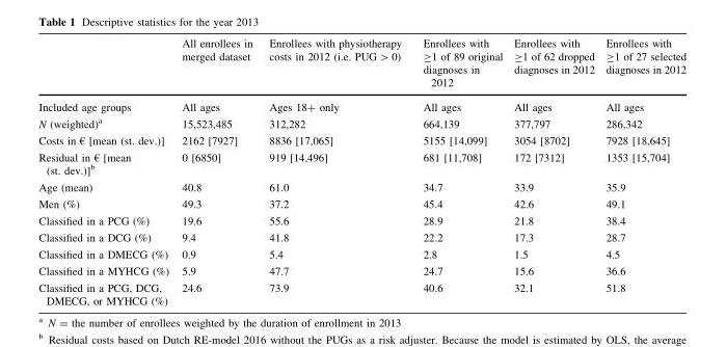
<table><thead><tr><td></td><td>All enrollees in merged dataset</td><td>Enrollees with physiotherapy costs in 2012 (i.e. PUG &gt; 0)</td><td>Enrollees with ≥1 of 89 original diagnoses in 2012</td><td>Enrollees with ≥1 of 62 dropped diagnoses in 2012</td><td>Enrollees with ≥1 of 27 selected diagnoses in 2012</td></tr></thead><tbody><tr><td>Included age groups</td><td>All ages</td><td>Ages 18+ only</td><td>All ages</td><td>All ages</td><td>All ages</td></tr><tr><td>N (weighted)<sup>a</sup></td><td>15,523,485</td><td>312,282</td><td>664,139</td><td>377,797</td><td>286,342</td></tr><tr><td>Costs in € [mean (st. dev.)]</td><td>2162 [7927]</td><td>8836 [17,065]</td><td>5155 [14,099]</td><td>3054 [8702]</td><td>7928 [18,645]</td></tr><tr><td>Residual in € [mean (st. dev.)]<sup>b</sup></td><td>0 [6850]</td><td>919 [14,496]</td><td>681 [11,708]</td><td>172 [7312]</td><td>1353 [15,704]</td></tr><tr><td>Age (mean)</td><td>40.8</td><td>61.0</td><td>34.7</td><td>33.9</td><td>35.9</td></tr><tr><td>Men (%)</td><td>49.3</td><td>37.2</td><td>45.4</td><td>42.6</td><td>49.1</td></tr><tr><td>Classified in a PCG (%)</td><td>19.6</td><td>55.6</td><td>28.9</td><td>21.8</td><td>38.4</td></tr><tr><td>Classified in a DCG (%)</td><td>9.4</td><td>41.8</td><td>22.2</td><td>17.3</td><td>28.7</td></tr><tr><td>Classified in a DMECG (%)</td><td>0.9</td><td>5.4</td><td>2.8</td><td>1.5</td><td>4.5</td></tr><tr><td>Classified in a MYHCG (%)</td><td>5.9</td><td>47.7</td><td>24.7</td><td>15.6</td><td>36.6</td></tr><tr><td>Classified in a PCG, DCG, DMECG, or MYHCG (%)</td><td>24.6</td><td>73.9</td><td>40.6</td><td>32.1</td><td>51.8</td></tr></tbody></table>